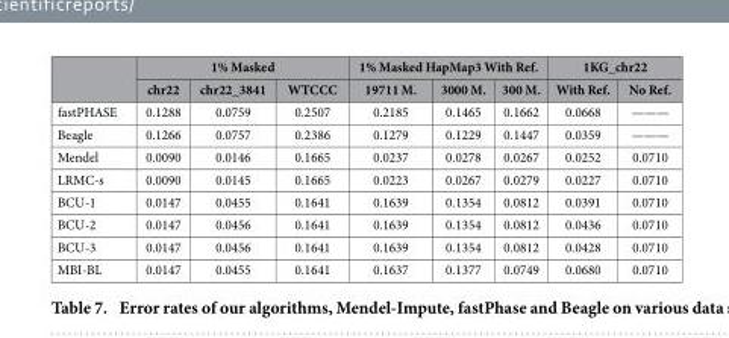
<table><thead><tr><td rowspan="2"></td><td colspan="3">1% Masked</td><td colspan="3">1% Masked HapMap3 With Ref.</td><td colspan="2">1KG_chr22</td></tr><tr><td>chr22</td><td>chr22_3841</td><td>WTCCC</td><td>19711 M.</td><td>3000 M.</td><td>300 M.</td><td>With Ref.</td><td>No Ref.</td></tr></thead><tbody><tr><td>fastPHASE</td><td>0.1288</td><td>0.0759</td><td>0.2507</td><td>0.2185</td><td>0.1465</td><td>0.1662</td><td>0.0668</td><td>———</td></tr><tr><td>Beagle</td><td>0.1266</td><td>0.0757</td><td>0.2386</td><td>0.1279</td><td>0.1229</td><td>0.1447</td><td>0.0359</td><td>———</td></tr><tr><td>Mendel</td><td>0.0090</td><td>0.0146</td><td>0.1665</td><td>0.0237</td><td>0.0278</td><td>0.0267</td><td>0.0252</td><td>0.0710</td></tr><tr><td>LRMC-s</td><td>0.0090</td><td>0.0145</td><td>0.1665</td><td>0.0223</td><td>0.0267</td><td>0.0279</td><td>0.0227</td><td>0.0710</td></tr><tr><td>BCU-1</td><td>0.0147</td><td>0.0455</td><td>0.1641</td><td>0.1639</td><td>0.1354</td><td>0.0812</td><td>0.0391</td><td>0.0710</td></tr><tr><td>BCU-2</td><td>0.0147</td><td>0.0456</td><td>0.1641</td><td>0.1639</td><td>0.1354</td><td>0.0812</td><td>0.0436</td><td>0.0710</td></tr><tr><td>BCU-3</td><td>0.0147</td><td>0.0456</td><td>0.1641</td><td>0.1639</td><td>0.1354</td><td>0.0812</td><td>0.0428</td><td>0.0710</td></tr><tr><td>MBI-BL</td><td>0.0147</td><td>0.0455</td><td>0.1641</td><td>0.1637</td><td>0.1377</td><td>0.0749</td><td>0.0680</td><td>0.0710</td></tr></tbody></table>